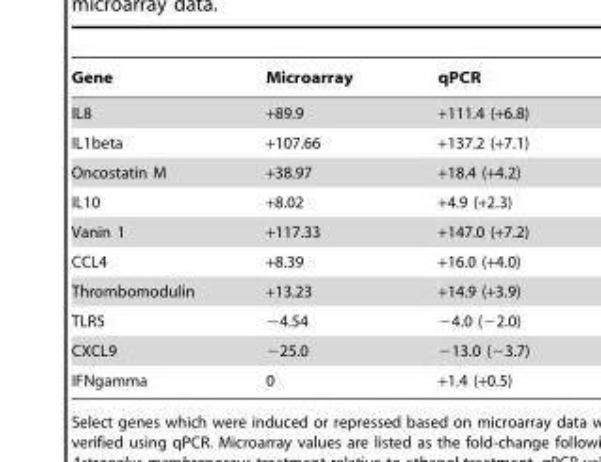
<table><thead><tr><td>Gene</td><td>Microarray</td><td>qPCR</td></tr></thead><tbody><tr><td>IL8</td><td>+89.9</td><td>+111.4 (+6.8)</td></tr><tr><td>IL1beta</td><td>+107.66</td><td>+137.2 (+7.1)</td></tr><tr><td>Oncostatin M</td><td>+38.97</td><td>+18.4 (+4.2)</td></tr><tr><td>IL10</td><td>+8.02</td><td>+4.9 (+2.3)</td></tr><tr><td>Vanin 1</td><td>+117.33</td><td>+147.0 (+7.2)</td></tr><tr><td>CCL4</td><td>+8.39</td><td>+16.0 (+4.0)</td></tr><tr><td>Thrombomodulin</td><td>+13.23</td><td>+14.9 (+3.9)</td></tr><tr><td>TLR5</td><td>−4.54</td><td>−4.0 (−2.0)</td></tr><tr><td>CXCL9</td><td>−25.0</td><td>−13.0 (−3.7)</td></tr><tr><td>IFNgamma</td><td>0</td><td>+1.4 (+0.5)</td></tr></tbody></table>